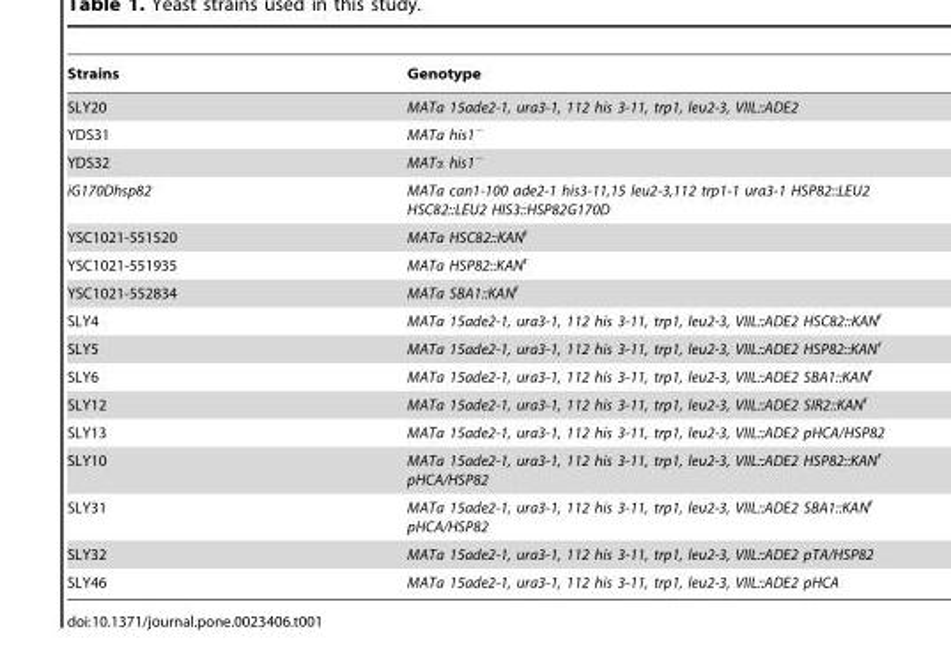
<table><thead><tr><td>Strains</td><td>Genotype</td></tr></thead><tbody><tr><td>SLY20</td><td>MATa 15ade2-1, ura3-1, 112 his 3-11, trp1, leu2-3, VIIL::ADE2</td></tr><tr><td>YDS31</td><td>MATa his1<sup>−</sup></td></tr><tr><td>YDS32</td><td>MATα his1<sup>−</sup></td></tr><tr><td>iG170Dhsp82</td><td>MATa can1-100 ade2-1 his3-11,15 leu2-3,112 trp1-1 ura3-1 HSP82::LEU2 HSC82::LEU2 HIS3::HSP82G170D</td></tr><tr><td>YSC1021-551520</td><td>MATa HSC82::KAN<sup>r</sup></td></tr><tr><td>YSC1021-551935</td><td>MATa HSP82::KAN<sup>r</sup></td></tr><tr><td>YSC1021-552834</td><td>MATa SBA1::KAN<sup>r</sup></td></tr><tr><td>SLY4</td><td>MATa 15ade2-1, ura3-1, 112 his 3-11, trp1, leu2-3, VIIL::ADE2 HSC82::KAN<sup>r</sup></td></tr><tr><td>SLY5</td><td>MATa 15ade2-1, ura3-1, 112 his 3-11, trp1, leu2-3, VIIL::ADE2 HSP82::KAN<sup>r</sup></td></tr><tr><td>SLY6</td><td>MATa 15ade2-1, ura3-1, 112 his 3-11, trp1, leu2-3, VIIL::ADE2 SBA1::KAN<sup>r</sup></td></tr><tr><td>SLY12</td><td>MATa 15ade2-1, ura3-1, 112 his 3-11, trp1, leu2-3, VIIL::ADE2 SIR2::KAN<sup>r</sup></td></tr><tr><td>SLY13</td><td>MATa 15ade2-1, ura3-1, 112 his 3-11, trp1, leu2-3, VIIL::ADE2 pHCA/HSP82</td></tr><tr><td>SLY10</td><td>MATa 15ade2-1, ura3-1, 112 his 3-11, trp1, leu2-3, VIIL::ADE2 HSP82::KAN<sup>r</sup> pHCA/HSP82</td></tr><tr><td>SLY31</td><td>MATa 15ade2-1, ura3-1, 112 his 3-11, trp1, leu2-3, VIIL::ADE2 SBA1::KAN<sup>r</sup> pHCA/HSP82</td></tr><tr><td>SLY32</td><td>MATa 15ade2-1, ura3-1, 112 his 3-11, trp1, leu2-3, VIIL::ADE2 pTA/HSP82</td></tr><tr><td>SLY46</td><td>MATa 15ade2-1, ura3-1, 112 his 3-11, trp1, leu2-3, VIIL::ADE2 pHCA</td></tr></tbody></table>